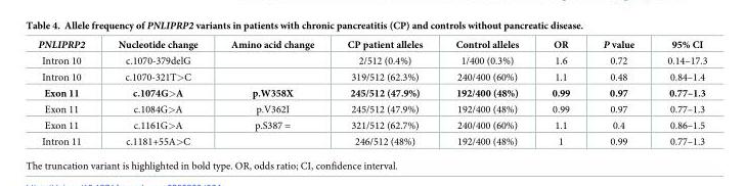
<table><thead><tr><td>PNLIPRP2</td><td>Nucleotide change</td><td>Amino acid change</td><td>CP patient alleles</td><td>Control alleles</td><td>OR</td><td>P value</td><td>95% CI</td></tr></thead><tbody><tr><td>Intron 10</td><td>c.1070-379delG</td><td></td><td>2/512 (0.4%)</td><td>1/400 (0.3%)</td><td>1.6</td><td>0.72</td><td>0.14–17.3</td></tr><tr><td>Intron 10</td><td>c.1070-321T&gt;C</td><td></td><td>319/512 (62.3%)</td><td>240/400 (60%)</td><td>1.1</td><td>0.48</td><td>0.84–1.4</td></tr><tr><td>Exon 11</td><td>c.1074G&gt;A</td><td>p.W358X</td><td>245/512 (47.9%)</td><td>192/400 (48%)</td><td>0.99</td><td>0.97</td><td>0.77–1.3</td></tr><tr><td>Exon 11</td><td>c.1084G&gt;A</td><td>p.V362I</td><td>245/512 (47.9%)</td><td>192/400 (48%)</td><td>0.99</td><td>0.97</td><td>0.77–1.3</td></tr><tr><td>Exon 11</td><td>c.1161G&gt;A</td><td>p.S387 =</td><td>321/512 (62.7%)</td><td>240/400 (60%)</td><td>1.1</td><td>0.4</td><td>0.86–1.5</td></tr><tr><td>Intron 11</td><td>c.1181+55A&gt;C</td><td></td><td>246/512 (48%)</td><td>192/400 (48%)</td><td>1</td><td>0.99</td><td>0.77–1.3</td></tr></tbody></table>